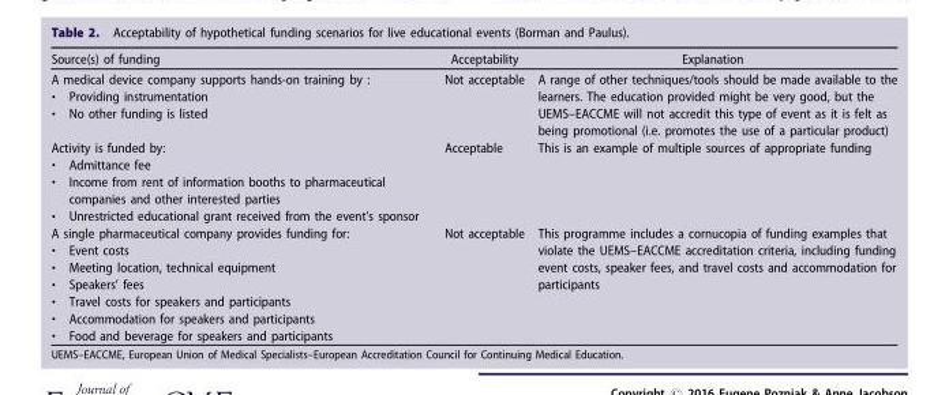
<table><thead><tr><td>Source(s) of funding</td><td>Acceptability</td><td>Explanation</td></tr></thead><tbody><tr><td>A medical device company supports hands-on training by : • Providing instrumentation • No other funding is listed</td><td>Not acceptable</td><td>A range of other techniques/tools should be made available to the learners. The education provided might be very good, but the UEMS–EACCME will not accredit this type of event as it is felt as being promotional (i.e. promotes the use of a particular product)</td></tr><tr><td>Activity is funded by: • Admittance fee • Income from rent of information booths to pharmaceutical companies and other interested parties • Unrestricted educational grant received from the event&#x27;s sponsor</td><td>Acceptable</td><td>This is an example of multiple sources of appropriate funding</td></tr><tr><td>A single pharmaceutical company provides funding for: • Event costs • Meeting location, technical equipment • Speakers’ fees • Travel costs for speakers and participants • Accommodation for speakers and participants • Food and beverage for speakers and participants</td><td>Not acceptable</td><td>This programme includes a cornucopia of funding examples that violate the UEMS–EACCME accreditation criteria, including funding event costs, speaker fees, and travel costs and accommodation for participants</td></tr></tbody></table>